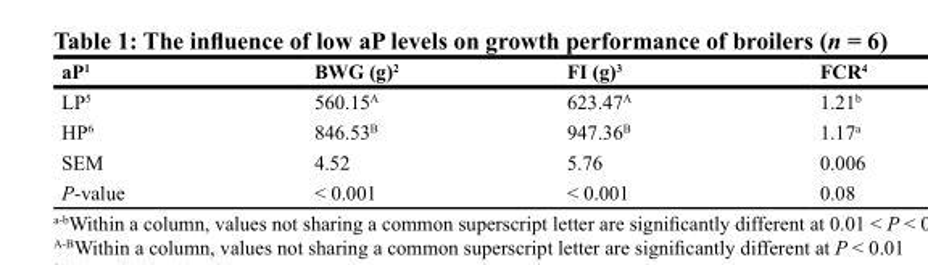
<table><thead><tr><td>aP<sup>1</sup></td><td>BWG (g)<sup>2</sup></td><td>FI (g)<sup>3</sup></td><td>FCR<sup>4</sup></td></tr></thead><tbody><tr><td>LP<sup>5</sup></td><td>560.15<sup>A</sup></td><td>623.47<sup>A</sup></td><td>1.21<sup>b</sup></td></tr><tr><td>HP<sup>6</sup></td><td>846.53<sup>B</sup></td><td>947.36<sup>B</sup></td><td>1.17<sup>a</sup></td></tr><tr><td>SEM</td><td>4.52</td><td>5.76</td><td>0.006</td></tr><tr><td>P-value</td><td>&lt; 0.001</td><td>&lt; 0.001</td><td>0.08</td></tr></tbody></table>